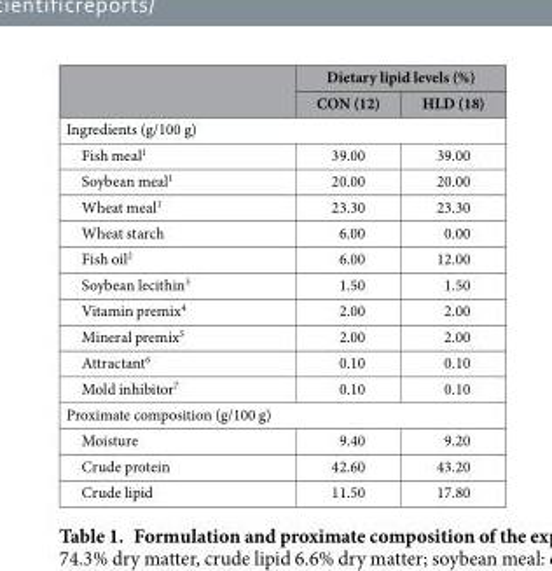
<table><thead><tr><td rowspan="2"></td><td colspan="2">Dietary lipid levels (%)</td></tr><tr><td>CON (12)</td><td>HLD (18)</td></tr></thead><tbody><tr><td colspan="3">Ingredients (g/100 g)</td></tr><tr><td>Fish meal<sup>1</sup></td><td>39.00</td><td>39.00</td></tr><tr><td>Soybean meal<sup>1</sup></td><td>20.00</td><td>20.00</td></tr><tr><td>Wheat meal<sup>1</sup></td><td>23.30</td><td>23.30</td></tr><tr><td>Wheat starch</td><td>6.00</td><td>0.00</td></tr><tr><td>Fish oil<sup>2</sup></td><td>6.00</td><td>12.00</td></tr><tr><td>Soybean lecithin<sup>3</sup></td><td>1.50</td><td>1.50</td></tr><tr><td>Vitamin premix<sup>4</sup></td><td>2.00</td><td>2.00</td></tr><tr><td>Mineral premix<sup>5</sup></td><td>2.00</td><td>2.00</td></tr><tr><td>Attractant<sup>6</sup></td><td>0.10</td><td>0.10</td></tr><tr><td>Mold inhibitor<sup>7</sup></td><td>0.10</td><td>0.10</td></tr><tr><td colspan="3">Proximate composition (g/100 g)</td></tr><tr><td>Moisture</td><td>9.40</td><td>9.20</td></tr><tr><td>Crude protein</td><td>42.60</td><td>43.20</td></tr><tr><td>Crude lipid</td><td>11.50</td><td>17.80</td></tr></tbody></table>